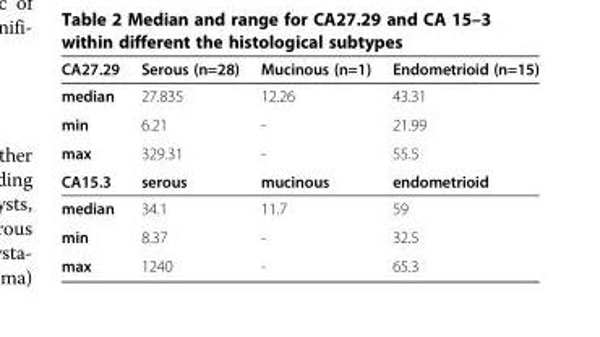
<table><thead><tr><td>CA27.29</td><td>Serous (n=28)</td><td>Mucinous (n=1)</td><td>Endometrioid (n=15)</td></tr></thead><tbody><tr><td>median</td><td>27.835</td><td>12.26</td><td>43.31</td></tr><tr><td>min</td><td>6.21</td><td>-</td><td>21.99</td></tr><tr><td>max</td><td>329.31</td><td>-</td><td>55.5</td></tr><tr><td>CA15.3</td><td>serous</td><td>mucinous</td><td>endometrioid</td></tr><tr><td>median</td><td>34.1</td><td>11.7</td><td>59</td></tr><tr><td>min</td><td>8.37</td><td>-</td><td>32.5</td></tr><tr><td>max</td><td>1240</td><td>-</td><td>65.3</td></tr></tbody></table>